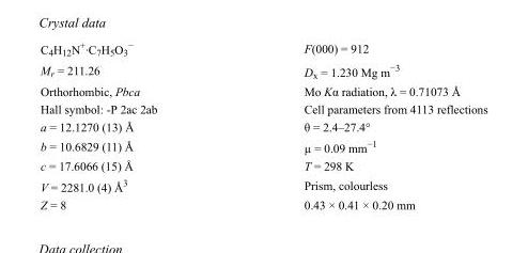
<table><tbody><tr><td>C<sub>4</sub>H<sub>12</sub>N<sup>+</sup>·C<sub>7</sub>H<sub>5</sub>O<sub>3</sub> <sup>−</sup></td><td>F(000) = 912</td></tr><tr><td>M<sub>r</sub> = 211.26</td><td>D<sub>x</sub> = 1.230 Mg m<sup>−3</sup></td></tr><tr><td>Orthorhombic, Pbca</td><td>Mo Kα radiation, λ = 0.71073 Å</td></tr><tr><td>Hall symbol: -P 2ac 2ab</td><td>Cell parameters from 4113 reflections</td></tr><tr><td>a = 12.1270 (13) Å</td><td>θ = 2.4–27.4°</td></tr><tr><td>b = 10.6829 (11) Å</td><td>µ = 0.09 mm<sup>−1</sup></td></tr><tr><td>c = 17.6066 (15) Å</td><td>T = 298 K</td></tr><tr><td>V = 2281.0 (4) Å<sup>3</sup></td><td>Prism, colourless</td></tr><tr><td>Z = 8</td><td>0.43 × 0.41 × 0.20 mm</td></tr></tbody></table>